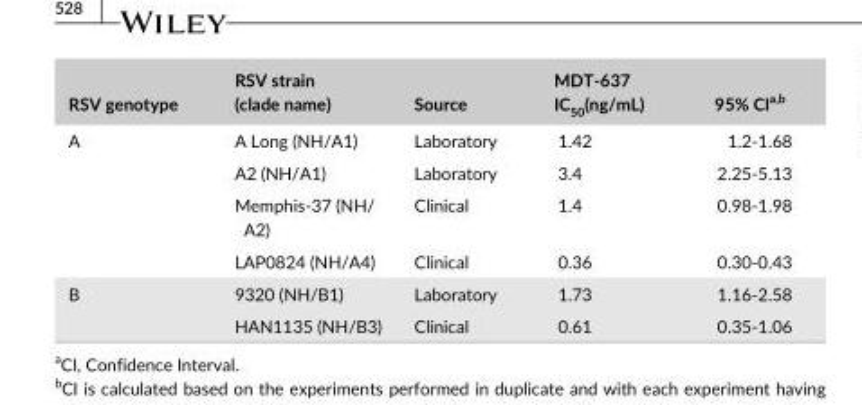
<table><thead><tr><td>RSV genotype</td><td>RSV strain (clade name)</td><td>Source</td><td>MDT- 637 IC<sub>50</sub>(ng/mL)</td><td>95% CI<sup>a,</sup>b</td></tr></thead><tbody><tr><td rowspan="4">A</td><td>A Long (NH/A1)</td><td>Laboratory</td><td>1.42</td><td>1.2- 1.68</td></tr><tr><td>A2 (NH/A1)</td><td>Laboratory</td><td>3.4</td><td>2.25- 5.13</td></tr><tr><td>Memphis- 37 (NH/ A2)</td><td>Clinical</td><td>1.4</td><td>0.98- 1.98</td></tr><tr><td>LAP0824 (NH/A4)</td><td>Clinical</td><td>0.36</td><td>0.30- 0.43</td></tr><tr><td rowspan="2">B</td><td>9320 (NH/B1)</td><td>Laboratory</td><td>1.73</td><td>1.16- 2.58</td></tr><tr><td>HAN1135 (NH/B3)</td><td>Clinical</td><td>0.61</td><td>0.35- 1.06</td></tr></tbody></table>